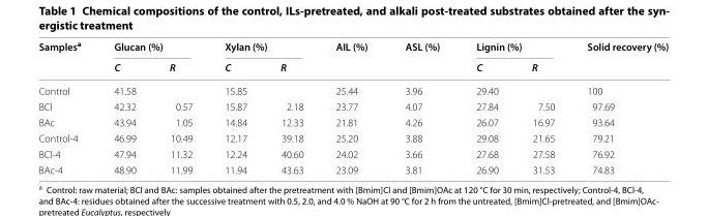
<table><thead><tr><td rowspan="2">Samples<sup>a</sup></td><td colspan="2">Glucan (%)</td><td colspan="2">Xylan (%)</td><td rowspan="2">AIL (%)</td><td rowspan="2">ASL (%)</td><td colspan="2">Lignin (%)</td><td rowspan="2">Solid recovery (%)</td></tr><tr><td>C</td><td>R</td><td>C</td><td>R</td><td>C</td><td>R</td></tr></thead><tbody><tr><td>Control</td><td>41.58</td><td></td><td>15.85</td><td></td><td>25.44</td><td>3.96</td><td>29.40</td><td></td><td>100</td></tr><tr><td>BCl</td><td>42.32</td><td>0.57</td><td>15.87</td><td>2.18</td><td>23.77</td><td>4.07</td><td>27.84</td><td>7.50</td><td>97.69</td></tr><tr><td>BAc</td><td>43.94</td><td>1.05</td><td>14.84</td><td>12.33</td><td>21.81</td><td>4.26</td><td>26.07</td><td>16.97</td><td>93.64</td></tr><tr><td>Control‑4</td><td>46.99</td><td>10.49</td><td>12.17</td><td>39.18</td><td>25.20</td><td>3.88</td><td>29.08</td><td>21.65</td><td>79.21</td></tr><tr><td>BCl‑4</td><td>47.94</td><td>11.32</td><td>12.24</td><td>40.60</td><td>24.02</td><td>3.66</td><td>27.68</td><td>27.58</td><td>76.92</td></tr><tr><td>BAc‑4</td><td>48.90</td><td>11.99</td><td>11.94</td><td>43.63</td><td>23.09</td><td>3.81</td><td>26.90</td><td>31.53</td><td>74.83</td></tr></tbody></table>